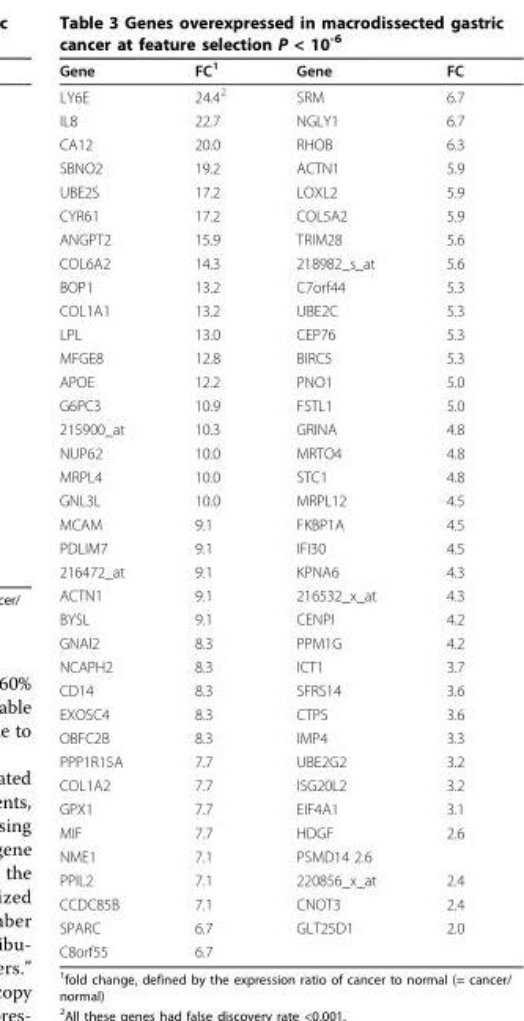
<table><thead><tr><td>Gene</td><td>FC<sup>1</sup></td><td>Gene</td><td>FC</td></tr></thead><tbody><tr><td>LY6E</td><td>24.4<sup>2</sup></td><td>SRM</td><td>6.7</td></tr><tr><td>IL8</td><td>22.7</td><td>NGLY1</td><td>6.7</td></tr><tr><td>CA12</td><td>20.0</td><td>RHOB</td><td>6.3</td></tr><tr><td>SBNO2</td><td>19.2</td><td>ACTN1</td><td>5.9</td></tr><tr><td>UBE2S</td><td>17.2</td><td>LOXL2</td><td>5.9</td></tr><tr><td>CYR61</td><td>17.2</td><td>COL5A2</td><td>5.9</td></tr><tr><td>ANGPT2</td><td>15.9</td><td>TRIM28</td><td>5.6</td></tr><tr><td>COL6A2</td><td>14.3</td><td>218982_s_at</td><td>5.6</td></tr><tr><td>BOP1</td><td>13.2</td><td>C7orf44</td><td>5.3</td></tr><tr><td>COL1A1</td><td>13.2</td><td>UBE2C</td><td>5.3</td></tr><tr><td>LPL</td><td>13.0</td><td>CEP76</td><td>5.3</td></tr><tr><td>MFGE8</td><td>12.8</td><td>BIRC5</td><td>5.3</td></tr><tr><td>APOE</td><td>12.2</td><td>PNO1</td><td>5.0</td></tr><tr><td>G6PC3</td><td>10.9</td><td>FSTL1</td><td>5.0</td></tr><tr><td>215900_at</td><td>10.3</td><td>GRINA</td><td>4.8</td></tr><tr><td>NUP62</td><td>10.0</td><td>MRTO4</td><td>4.8</td></tr><tr><td>MRPL4</td><td>10.0</td><td>STC1</td><td>4.8</td></tr><tr><td>GNL3L</td><td>10.0</td><td>MRPL12</td><td>4.5</td></tr><tr><td>MCAM</td><td>9.1</td><td>FKBP1A</td><td>4.5</td></tr><tr><td>PDLIM7</td><td>9.1</td><td>IFI30</td><td>4.5</td></tr><tr><td>216472_at</td><td>9.1</td><td>KPNA6</td><td>4.3</td></tr><tr><td>ACTN1</td><td>9.1</td><td>216532_x_at</td><td>4.3</td></tr><tr><td>BYSL</td><td>9.1</td><td>CENPI</td><td>4.2</td></tr><tr><td>GNAI2</td><td>8.3</td><td>PPM1G</td><td>4.2</td></tr><tr><td>NCAPH2</td><td>8.3</td><td>ICT1</td><td>3.7</td></tr><tr><td>CD14</td><td>8.3</td><td>SFRS14</td><td>3.6</td></tr><tr><td>EXOSC4</td><td>8.3</td><td>CTPS</td><td>3.6</td></tr><tr><td>OBFC2B</td><td>8.3</td><td>IMP4</td><td>3.3</td></tr><tr><td>PPP1R15A</td><td>7.7</td><td>UBE2G2</td><td>3.2</td></tr><tr><td>COL1A2</td><td>7.7</td><td>ISG20L2</td><td>3.2</td></tr><tr><td>GPX1</td><td>7.7</td><td>EIF4A1</td><td>3.1</td></tr><tr><td>MIF</td><td>7.7</td><td>HDGF</td><td>2.6</td></tr><tr><td>NME1</td><td>7.1</td><td>PSMD14 2.6</td><td></td></tr><tr><td>PPIL2</td><td>7.1</td><td>220856_x_at</td><td>2.4</td></tr><tr><td>CCDC85B</td><td>7.1</td><td>CNOT3</td><td>2.4</td></tr><tr><td>SPARC</td><td>6.7</td><td>GLT25D1</td><td>2.0</td></tr><tr><td>C8orf55</td><td>6.7</td><td></td><td></td></tr></tbody></table>